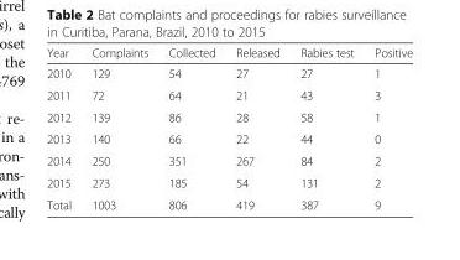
<table><thead><tr><td>Year</td><td>Complaints</td><td>Collected</td><td>Released</td><td>Rabies test</td><td>Positive</td></tr></thead><tbody><tr><td>2010</td><td>129</td><td>54</td><td>27</td><td>27</td><td>1</td></tr><tr><td>2011</td><td>72</td><td>64</td><td>21</td><td>43</td><td>3</td></tr><tr><td>2012</td><td>139</td><td>86</td><td>28</td><td>58</td><td>1</td></tr><tr><td>2013</td><td>140</td><td>66</td><td>22</td><td>44</td><td>0</td></tr><tr><td>2014</td><td>250</td><td>351</td><td>267</td><td>84</td><td>2</td></tr><tr><td>2015</td><td>273</td><td>185</td><td>54</td><td>131</td><td>2</td></tr><tr><td>Total</td><td>1003</td><td>806</td><td>419</td><td>387</td><td>9</td></tr></tbody></table>